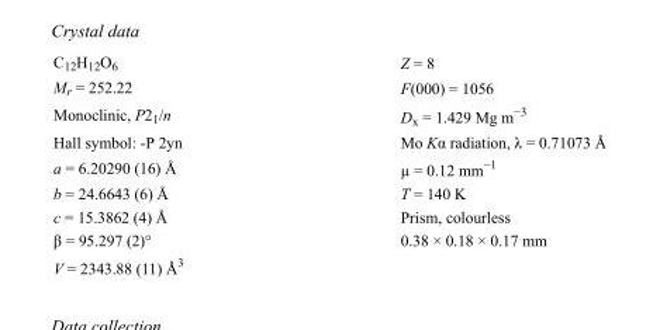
<table><tbody><tr><td>C<sub>12</sub>H<sub>12</sub>O<sub>6</sub></td><td>Z = 8</td></tr><tr><td>M<sub>r</sub> = 252.22</td><td>F(000) = 1056</td></tr><tr><td>Monoclinic, P2<sub>1</sub>/n</td><td>D<sub>x</sub> = 1.429 Mg m<sup>−3</sup></td></tr><tr><td>Hall symbol: -P 2yn</td><td>Mo Kα radiation, λ = 0.71073 Å</td></tr><tr><td>a = 6.20290 (16) Å</td><td>µ = 0.12 mm<sup>−1</sup></td></tr><tr><td>b = 24.6643 (6) Å</td><td>T = 140 K</td></tr><tr><td>c = 15.3862 (4) Å</td><td>Prism, colourless</td></tr><tr><td>β = 95.297 (2)°</td><td>0.38 × 0.18 × 0.17 mm</td></tr><tr><td>V = 2343.88 (11) Å<sup>3</sup></td><td></td></tr></tbody></table>